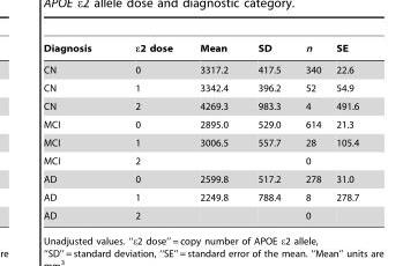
<table><thead><tr><td>Diagnosis</td><td>ε2 dose</td><td>Mean</td><td>SD</td><td>n</td><td>SE</td></tr></thead><tbody><tr><td>CN</td><td>0</td><td>3317.2</td><td>417.5</td><td>340</td><td>22.6</td></tr><tr><td>CN</td><td>1</td><td>3342.4</td><td>396.2</td><td>52</td><td>54.9</td></tr><tr><td>CN</td><td>2</td><td>4269.3</td><td>983.3</td><td>4</td><td>491.6</td></tr><tr><td>MCI</td><td>0</td><td>2895.0</td><td>529.0</td><td>614</td><td>21.3</td></tr><tr><td>MCI</td><td>1</td><td>3006.5</td><td>557.7</td><td>28</td><td>105.4</td></tr><tr><td>MCI</td><td>2</td><td></td><td></td><td>0</td><td></td></tr><tr><td>AD</td><td>0</td><td>2599.8</td><td>517.2</td><td>278</td><td>31.0</td></tr><tr><td>AD</td><td>1</td><td>2249.8</td><td>788.4</td><td>8</td><td>278.7</td></tr><tr><td>AD</td><td>2</td><td></td><td></td><td>0</td><td></td></tr></tbody></table>